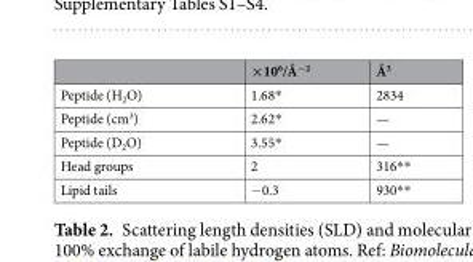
<table><thead><tr><td></td><td>×10<sup>6</sup>/Å<sup>−2</sup></td><td>Å<sup>3</sup></td></tr></thead><tbody><tr><td>Peptide (H<sub>2</sub>O)</td><td>1.68*</td><td>2834</td></tr><tr><td>Peptide (cm<sup>3</sup>)</td><td>2.62*</td><td>—</td></tr><tr><td>Peptide (D<sub>2</sub>O)</td><td>3.55*</td><td>—</td></tr><tr><td>Head groups</td><td>2</td><td>316**</td></tr><tr><td>Lipid tails</td><td>−0.3</td><td>930**</td></tr></tbody></table>